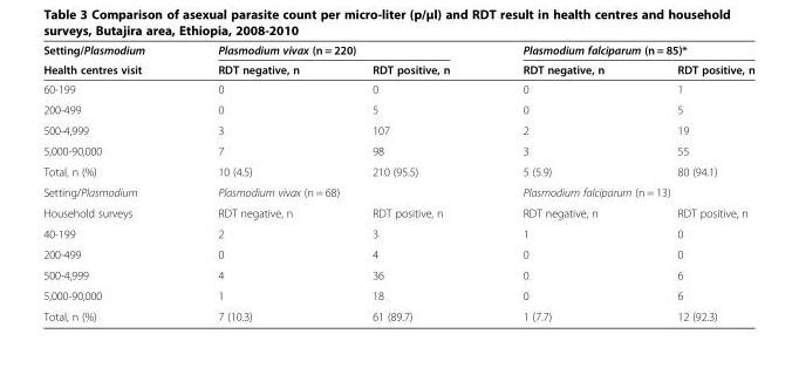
<table><thead><tr><td rowspan="2">Setting/Plasmodium Health centres visit</td><td colspan="2">Plasmodium vivax (n = 220)</td><td colspan="2">Plasmodium falciparum (n = 85)*</td></tr><tr><td>RDT negative, n</td><td>RDT positive, n</td><td>RDT negative, n</td><td>RDT positive, n</td></tr></thead><tbody><tr><td>60-199</td><td>0</td><td>0</td><td>0</td><td>1</td></tr><tr><td>200-499</td><td>0</td><td>5</td><td>0</td><td>5</td></tr><tr><td>500-4,999</td><td>3</td><td>107</td><td>2</td><td>19</td></tr><tr><td>5,000-90,000</td><td>7</td><td>98</td><td>3</td><td>55</td></tr><tr><td>Total, n (%)</td><td>10 (4.5)</td><td>210 (95.5)</td><td>5 (5.9)</td><td>80 (94.1)</td></tr><tr><td>Setting/Plasmodium</td><td colspan="2">Plasmodium vivax (n = 68)</td><td colspan="2">Plasmodium falciparum (n = 13)</td></tr><tr><td>Household surveys</td><td>RDT negative, n</td><td>RDT positive, n</td><td>RDT negative, n</td><td>RDT positive, n</td></tr><tr><td>40-199</td><td>2</td><td>3</td><td>1</td><td>0</td></tr><tr><td>200-499</td><td>0</td><td>4</td><td>0</td><td>0</td></tr><tr><td>500-4,999</td><td>4</td><td>36</td><td>0</td><td>6</td></tr><tr><td>5,000-90,000</td><td>1</td><td>18</td><td>0</td><td>6</td></tr><tr><td>Total, n (%)</td><td>7 (10.3)</td><td>61 (89.7)</td><td>1 (7.7)</td><td>12 (92.3)</td></tr></tbody></table>